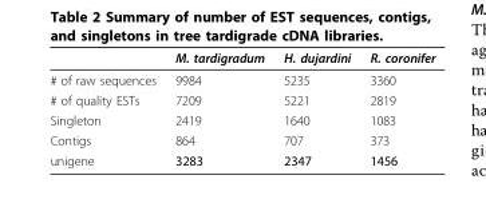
<table><thead><tr><td></td><td>M. tardigradum</td><td>H. dujardini</td><td>R. coronifer</td></tr></thead><tbody><tr><td># of raw sequences</td><td>9984</td><td>5235</td><td>3360</td></tr><tr><td># of quality ESTs</td><td>7209</td><td>5221</td><td>2819</td></tr><tr><td>Singleton</td><td>2419</td><td>1640</td><td>1083</td></tr><tr><td>Contigs</td><td>864</td><td>707</td><td>373</td></tr><tr><td>unigene</td><td>3283</td><td>2347</td><td>1456</td></tr></tbody></table>